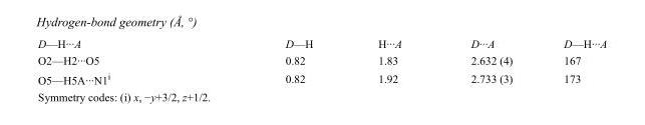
<table><tbody><tr><td>D—H···A</td><td>D—H</td><td>H···A</td><td>D···A</td><td>D—H···A</td></tr><tr><td>O2—H2···O5</td><td>0.82</td><td>1.83</td><td>2.632 (4)</td><td>167</td></tr><tr><td>O5—H5A···N1<sup>i</sup></td><td>0.82</td><td>1.92</td><td>2.733 (3)</td><td>173</td></tr></tbody></table>